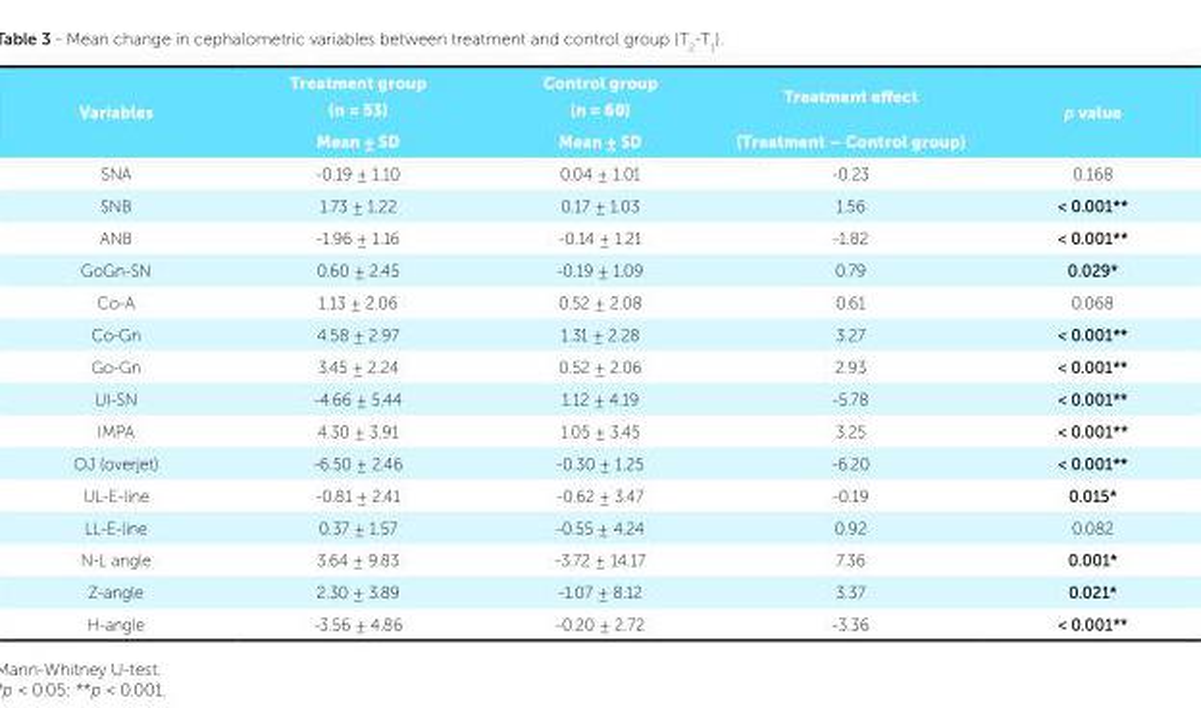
<table><tbody><tr><td rowspan="2">Variables</td><td>Treatment group (n = 53)</td><td>Control group (n = 60)</td><td>Treatment effect</td><td rowspan="2">p value</td></tr><tr><td>Mean ± SD</td><td>Mean ± SD</td><td>(Treatment – Control group)</td></tr><tr><td>SNA</td><td>-0.19 ± 1.10</td><td>0.04 ± 1.01</td><td>-0.23</td><td>0.168</td></tr><tr><td>SNB</td><td>1.73 ± 1.22</td><td>0.17 ± 1.03</td><td>1.56</td><td>&lt; 0.001**</td></tr><tr><td>ANB</td><td>-1.96 ± 1.16</td><td>-0.14 ± 1.21</td><td>-1.82</td><td>&lt; 0.001**</td></tr><tr><td>GoGn-SN</td><td>0.60 ± 2.45</td><td>-0.19 ± 1.09</td><td>0.79</td><td>0.029*</td></tr><tr><td>Co-A</td><td>1.13 ± 2.06</td><td>0.52 ± 2.08</td><td>0.61</td><td>0.068</td></tr><tr><td>Co-Gn</td><td>4.58 ± 2.97</td><td>1.31 ± 2.28</td><td>3.27</td><td>&lt; 0.001**</td></tr><tr><td>Go-Gn</td><td>3.45 ± 2.24</td><td>0.52 ± 2.06</td><td>2.93</td><td>&lt; 0.001**</td></tr><tr><td>UI-SN</td><td>-4.66 ± 5.44</td><td>1.12 ± 4.19</td><td>-5.78</td><td>&lt; 0.001**</td></tr><tr><td>IMPA</td><td>4.30 ± 3.91</td><td>1.05 ± 3.45</td><td>3.25</td><td>&lt; 0.001**</td></tr><tr><td>OJ (overjet)</td><td>-6.50 ± 2.46</td><td>-0.30 ± 1.25</td><td>-6.20</td><td>&lt; 0.001**</td></tr><tr><td>UL-E-line</td><td>-0.81 ± 2.41</td><td>-0.62 ± 3.47</td><td>-0.19</td><td>0.015*</td></tr><tr><td>LL-E-line</td><td>0.37 ± 1.57</td><td>-0.55 ± 4.24</td><td>0.92</td><td>0.082</td></tr><tr><td>N-L angle</td><td>3.64 ± 9.83</td><td>-3.72 ± 14.17</td><td>7.36</td><td>0.001*</td></tr><tr><td>Z-angle</td><td>2.30 ± 3.89</td><td>-1.07 ± 8.12</td><td>3.37</td><td>0.021*</td></tr><tr><td>H-angle</td><td>-3.56 ± 4.86</td><td>-0.20 ± 2.72</td><td>-3.36</td><td>&lt; 0.001**</td></tr></tbody></table>